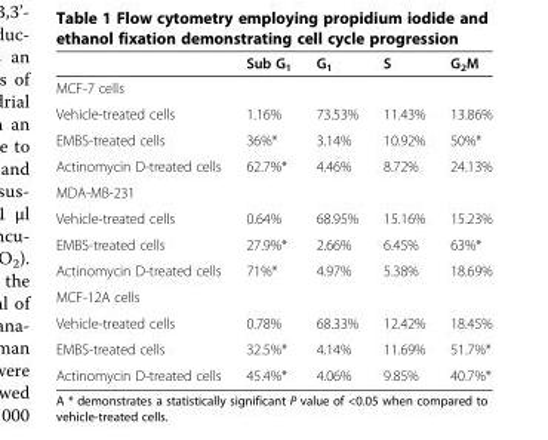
<table><thead><tr><td></td><td>Sub G<sub>1</sub></td><td>G<sub>1</sub></td><td>S</td><td>G<sub>2</sub>M</td></tr></thead><tbody><tr><td colspan="5">MCF-7 cells</td></tr><tr><td>Vehicle-treated cells</td><td>1.16%</td><td>73.53%</td><td>11.43%</td><td>13.86%</td></tr><tr><td>EMBS-treated cells</td><td>36%*</td><td>3.14%</td><td>10.92%</td><td>50%*</td></tr><tr><td>Actinomycin D-treated cells</td><td>62.7%*</td><td>4.46%</td><td>8.72%</td><td>24.13%</td></tr><tr><td colspan="5">MDA-MB-231</td></tr><tr><td>Vehicle-treated cells</td><td>0.64%</td><td>68.95%</td><td>15.16%</td><td>15.23%</td></tr><tr><td>EMBS-treated cells</td><td>27.9%*</td><td>2.66%</td><td>6.45%</td><td>63%*</td></tr><tr><td>Actinomycin D-treated cells</td><td>71%*</td><td>4.97%</td><td>5.38%</td><td>18.69%</td></tr><tr><td colspan="5">MCF-12A cells</td></tr><tr><td>Vehicle-treated cells</td><td>0.78%</td><td>68.33%</td><td>12.42%</td><td>18.45%</td></tr><tr><td>EMBS-treated cells</td><td>32.5%*</td><td>4.14%</td><td>11.69%</td><td>51.7%*</td></tr><tr><td>Actinomycin D-treated cells</td><td>45.4%*</td><td>4.06%</td><td>9.85%</td><td>40.7%*</td></tr></tbody></table>